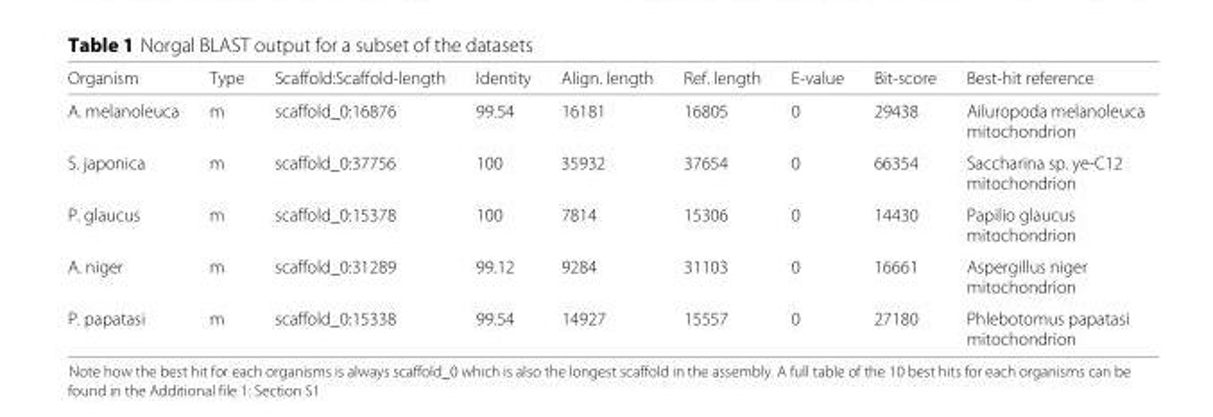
<table><thead><tr><td>Organism</td><td>Type</td><td>Scaffold:Scaffold-length</td><td>Identity</td><td>Align. length</td><td>Ref. length</td><td>E-value</td><td>Bit-score</td><td>Best-hit reference</td></tr></thead><tbody><tr><td>A. melanoleuca</td><td>m</td><td>scaffold_0:16876</td><td>99.54</td><td>16181</td><td>16805</td><td>0</td><td>29438</td><td>Ailuropoda melanoleuca mitochondrion</td></tr><tr><td>S. japonica</td><td>m</td><td>scaffold_0:37756</td><td>100</td><td>35932</td><td>37654</td><td>0</td><td>66354</td><td>Saccharina sp. ye-C12 mitochondrion</td></tr><tr><td>P. glaucus</td><td>m</td><td>scaffold_0:15378</td><td>100</td><td>7814</td><td>15306</td><td>0</td><td>14430</td><td>Papilio glaucus mitochondrion</td></tr><tr><td>A. niger</td><td>m</td><td>scaffold_0:31289</td><td>99.12</td><td>9284</td><td>31103</td><td>0</td><td>16661</td><td>Aspergillus niger mitochondrion</td></tr><tr><td>P. papatasi</td><td>m</td><td>scaffold_0:15338</td><td>99.54</td><td>14927</td><td>15557</td><td>0</td><td>27180</td><td>Phlebotomus papatasi mitochondrion</td></tr></tbody></table>